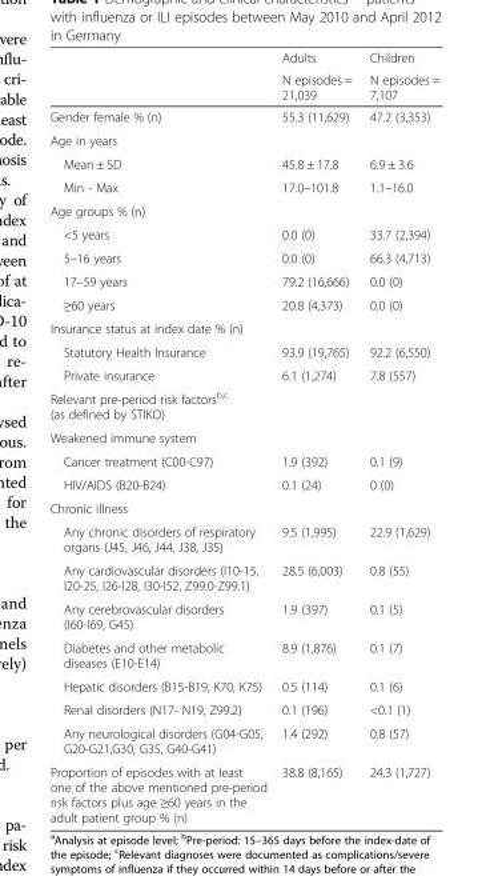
<table><thead><tr><td rowspan="2"></td><td rowspan="2">Adults N episodes = 21,039</td><td rowspan="2">Children N episodes = 7,107</td></tr><tr></tr></thead><tbody><tr><td>Gender female % (n)</td><td>55.3 (11,629)</td><td>47.2 (3,353)</td></tr><tr><td colspan="3">Age in years</td></tr><tr><td>Mean ± SD</td><td>45.8 ± 17.8</td><td>6.9 ± 3.6</td></tr><tr><td>Min - Max</td><td>17.0–101.8</td><td>1.1–16.0</td></tr><tr><td colspan="3">Age groups % (n)</td></tr><tr><td>&lt;5 years</td><td>0.0 (0)</td><td>33.7 (2,394)</td></tr><tr><td>5–16 years</td><td>0.0 (0)</td><td>66.3 (4,713)</td></tr><tr><td>17–59 years</td><td>79.2 (16,666)</td><td>0.0 (0)</td></tr><tr><td>≥60 years</td><td>20.8 (4,373)</td><td>0.0 (0)</td></tr><tr><td colspan="3">Insurance status at index date % (n)</td></tr><tr><td>Statutory Health Insurance</td><td>93.9 (19,765)</td><td>92.2 (6,550)</td></tr><tr><td>Private insurance</td><td>6.1 (1,274)</td><td>7.8 (557)</td></tr><tr><td colspan="3">Relevant pre-period risk factors<sup>b,c</sup> (as defined by STIKO)</td></tr><tr><td colspan="3">Weakened immune system</td></tr><tr><td>Cancer treatment (C00-C97)</td><td>1.9 (392)</td><td>0.1 (9)</td></tr><tr><td>HIV/AIDS (B20-B24)</td><td>0.1 (24)</td><td>0 (0)</td></tr><tr><td colspan="3">Chronic illness</td></tr><tr><td>Any chronic disorders of respiratory organs (J45, J46, J44, J38, J35)</td><td>9.5 (1,995)</td><td>22.9 (1,629)</td></tr><tr><td>Any cardiovascular disorders (I10-15, I20-25, I26-I28, I30-I52, Z99.0-Z99.1)</td><td>28.5 (6,003)</td><td>0.8 (55)</td></tr><tr><td>Any cerebrovascular disorders (I60-I69, G45)</td><td>1.9 (397)</td><td>0.1 (5)</td></tr><tr><td>Diabetes and other metabolic diseases (E10-E14)</td><td>8.9 (1,876)</td><td>0.1 (7)</td></tr><tr><td>Hepatic disorders (B15-B19, K70, K75)</td><td>0.5 (114)</td><td>0.1 (6)</td></tr><tr><td>Renal disorders (N17- N19, Z99.2)</td><td>0.1 (196)</td><td>&lt;0.1 (1)</td></tr><tr><td>Any neurological disorders (G04-G05, G20-G21,G30, G35, G40-G41)</td><td>1.4 (292)</td><td>0.8 (57)</td></tr><tr><td>Proportion of episodes with at least one of the above mentioned pre-period risk factors plus age ≥60 years in the adult patient group % (n)</td><td>38.8 (8,165)</td><td>24.3 (1,727)</td></tr></tbody></table>